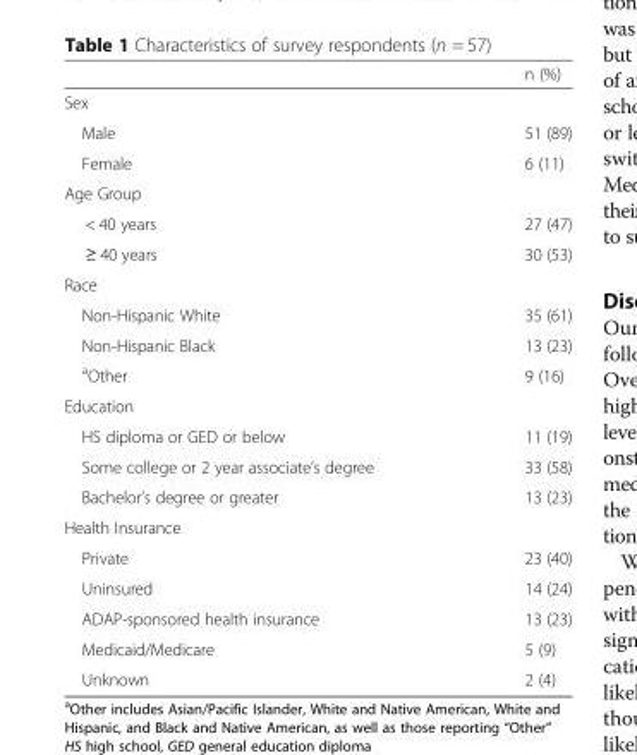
<table><thead><tr><td></td><td>n (%)</td></tr></thead><tbody><tr><td colspan="2">Sex</td></tr><tr><td>Male</td><td>51 (89)</td></tr><tr><td>Female</td><td>6 (11)</td></tr><tr><td colspan="2">Age Group</td></tr><tr><td>&lt; 40 years</td><td>27 (47)</td></tr><tr><td>≥ 40 years</td><td>30 (53)</td></tr><tr><td colspan="2">Race</td></tr><tr><td>Non-Hispanic White</td><td>35 (61)</td></tr><tr><td>Non-Hispanic Black</td><td>13 (23)</td></tr><tr><td><sup>a</sup>Other</td><td>9 (16)</td></tr><tr><td colspan="2">Education</td></tr><tr><td>HS diploma or GED or below</td><td>11 (19)</td></tr><tr><td>Some college or 2 year associate’s degree</td><td>33 (58)</td></tr><tr><td>Bachelor’s degree or greater</td><td>13 (23)</td></tr><tr><td colspan="2">Health Insurance</td></tr><tr><td>Private</td><td>23 (40)</td></tr><tr><td>Uninsured</td><td>14 (24)</td></tr><tr><td>ADAP-sponsored health insurance</td><td>13 (23)</td></tr><tr><td>Medicaid/Medicare</td><td>5 (9)</td></tr><tr><td>Unknown</td><td>2 (4)</td></tr></tbody></table>